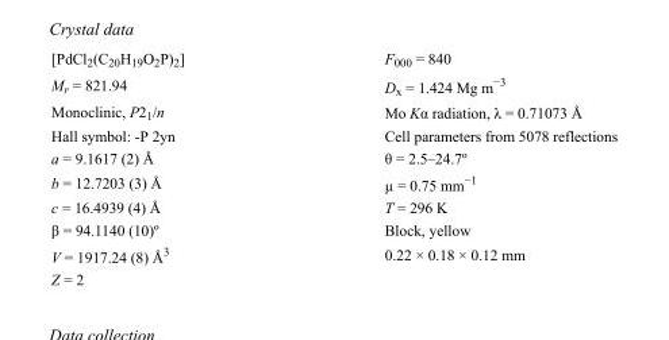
<table><tbody><tr><td>[PdCl<sub>2</sub>(C<sub>20</sub>H<sub>19</sub>O<sub>2</sub>P)<sub>2</sub>]</td><td>F000 = 840</td></tr><tr><td>M<sub>r</sub> = 821.94</td><td>D<sub>x</sub> = 1.424 Mg m<sup>−3</sup></td></tr><tr><td>Monoclinic, P2<sub>1</sub>/n</td><td>Mo Kα radiation, λ = 0.71073 Å</td></tr><tr><td>Hall symbol: -P 2yn</td><td>Cell parameters from 5078 reflections</td></tr><tr><td>a = 9.1617 (2) Å</td><td>θ = 2.5–24.7º</td></tr><tr><td>b = 12.7203 (3) Å</td><td>µ = 0.75 mm<sup>−1</sup></td></tr><tr><td>c = 16.4939 (4) Å</td><td>T = 296 K</td></tr><tr><td>β = 94.1140 (10)º</td><td>Block, yellow</td></tr><tr><td>V = 1917.24 (8) Å<sup>3</sup></td><td>0.22 × 0.18 × 0.12 mm</td></tr><tr><td>Z = 2</td><td></td></tr></tbody></table>